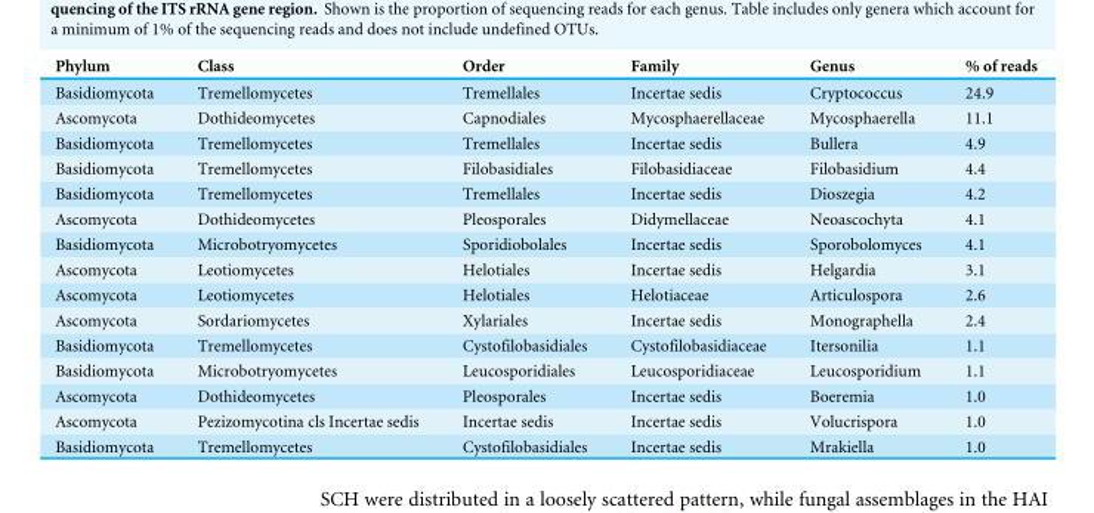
<table><thead><tr><td>Phylum</td><td>Class</td><td>Order</td><td>Family</td><td>Genus</td><td>% of reads</td></tr></thead><tbody><tr><td>Basidiomycota</td><td>Tremellomycetes</td><td>Tremellales</td><td>Incertae sedis</td><td>Cryptococcus</td><td>24.9</td></tr><tr><td>Ascomycota</td><td>Dothideomycetes</td><td>Capnodiales</td><td>Mycosphaerellaceae</td><td>Mycosphaerella</td><td>11.1</td></tr><tr><td>Basidiomycota</td><td>Tremellomycetes</td><td>Tremellales</td><td>Incertae sedis</td><td>Bullera</td><td>4.9</td></tr><tr><td>Basidiomycota</td><td>Tremellomycetes</td><td>Filobasidiales</td><td>Filobasidiaceae</td><td>Filobasidium</td><td>4.4</td></tr><tr><td>Basidiomycota</td><td>Tremellomycetes</td><td>Tremellales</td><td>Incertae sedis</td><td>Dioszegia</td><td>4.2</td></tr><tr><td>Ascomycota</td><td>Dothideomycetes</td><td>Pleosporales</td><td>Didymellaceae</td><td>Neoascochyta</td><td>4.1</td></tr><tr><td>Basidiomycota</td><td>Microbotryomycetes</td><td>Sporidiobolales</td><td>Incertae sedis</td><td>Sporobolomyces</td><td>4.1</td></tr><tr><td>Ascomycota</td><td>Leotiomycetes</td><td>Helotiales</td><td>Incertae sedis</td><td>Helgardia</td><td>3.1</td></tr><tr><td>Ascomycota</td><td>Leotiomycetes</td><td>Helotiales</td><td>Helotiaceae</td><td>Articulospora</td><td>2.6</td></tr><tr><td>Ascomycota</td><td>Sordariomycetes</td><td>Xylariales</td><td>Incertae sedis</td><td>Monographella</td><td>2.4</td></tr><tr><td>Basidiomycota</td><td>Tremellomycetes</td><td>Cystofilobasidiales</td><td>Cystofilobasidiaceae</td><td>Itersonilia</td><td>1.1</td></tr><tr><td>Basidiomycota</td><td>Microbotryomycetes</td><td>Leucosporidiales</td><td>Leucosporidiaceae</td><td>Leucosporidium</td><td>1.1</td></tr><tr><td>Ascomycota</td><td>Dothideomycetes</td><td>Pleosporales</td><td>Incertae sedis</td><td>Boeremia</td><td>1.0</td></tr><tr><td>Ascomycota</td><td>Pezizomycotina cls Incertae sedis</td><td>Incertae sedis</td><td>Incertae sedis</td><td>Volucrispora</td><td>1.0</td></tr><tr><td>Basidiomycota</td><td>Tremellomycetes</td><td>Cystofilobasidiales</td><td>Incertae sedis</td><td>Mrakiella</td><td>1.0</td></tr></tbody></table>